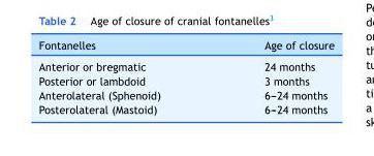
<table><thead><tr><td>Fontanelles</td><td>Age of closure</td></tr></thead><tbody><tr><td>Anterior or bregmatic</td><td>24 months</td></tr><tr><td>Posterior or lambdoid</td><td>3 months</td></tr><tr><td>Anterolateral (Sphenoid)</td><td>6---24 months</td></tr><tr><td>Posterolateral (Mastoid)</td><td>6---24 months</td></tr></tbody></table>